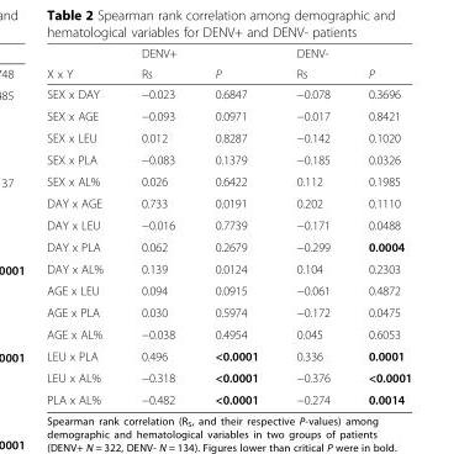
<table><thead><tr><td rowspan="2">X x Y</td><td rowspan="2">DENV+ Rs</td><td rowspan="2">P</td><td rowspan="2">DENV- Rs</td><td rowspan="2">P</td></tr><tr></tr></thead><tbody><tr><td>SEX x DAY</td><td>−0.023</td><td>0.6847</td><td>−0.078</td><td>0.3696</td></tr><tr><td>SEX x AGE</td><td>−0.093</td><td>0.0971</td><td>−0.017</td><td>0.8421</td></tr><tr><td>SEX x LEU</td><td>0.012</td><td>0.8287</td><td>−0.142</td><td>0.1020</td></tr><tr><td>SEX x PLA</td><td>−0.083</td><td>0.1379</td><td>−0.185</td><td>0.0326</td></tr><tr><td>SEX x AL%</td><td>0.026</td><td>0.6422</td><td>0.112</td><td>0.1985</td></tr><tr><td>DAY x AGE</td><td>0.733</td><td>0.0191</td><td>0.202</td><td>0.1110</td></tr><tr><td>DAY x LEU</td><td>−0.016</td><td>0.7739</td><td>−0.171</td><td>0.0488</td></tr><tr><td>DAY x PLA</td><td>0.062</td><td>0.2679</td><td>−0.299</td><td>0.0004</td></tr><tr><td>DAY x AL%</td><td>0.139</td><td>0.0124</td><td>0.104</td><td>0.2303</td></tr><tr><td>AGE x LEU</td><td>0.094</td><td>0.0915</td><td>−0.061</td><td>0.4872</td></tr><tr><td>AGE x PLA</td><td>0.030</td><td>0.5974</td><td>−0.172</td><td>0.0475</td></tr><tr><td>AGE x AL%</td><td>−0.038</td><td>0.4954</td><td>0.045</td><td>0.6053</td></tr><tr><td>LEU x PLA</td><td>0.496</td><td>&lt;0.0001</td><td>0.336</td><td>0.0001</td></tr><tr><td>LEU x AL%</td><td>−0.318</td><td>&lt;0.0001</td><td>−0.376</td><td>&lt;0.0001</td></tr><tr><td>PLA x AL%</td><td>−0.482</td><td>&lt;0.0001</td><td>−0.274</td><td>0.0014</td></tr></tbody></table>